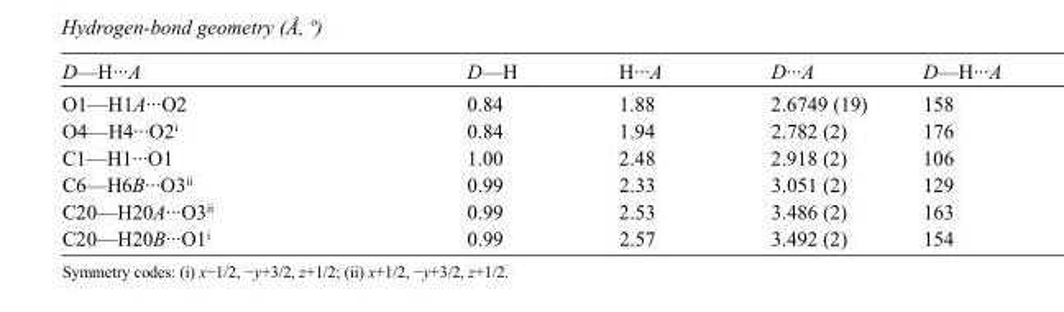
<table><tbody><tr><td>D—H···A</td><td>D—H</td><td>H···A</td><td>D···A</td><td>D—H···A</td></tr><tr><td>O1—H1A···O2</td><td>0.84</td><td>1.88</td><td>2.6749 (19)</td><td>158</td></tr><tr><td>O4—H4···O2<sup>i</sup></td><td>0.84</td><td>1.94</td><td>2.782 (2)</td><td>176</td></tr><tr><td>C1—H1···O1</td><td>1.00</td><td>2.48</td><td>2.918 (2)</td><td>106</td></tr><tr><td>C6—H6B···O3<sup>ii</sup></td><td>0.99</td><td>2.33</td><td>3.051 (2)</td><td>129</td></tr><tr><td>C20—H20A···O3<sup>ii</sup></td><td>0.99</td><td>2.53</td><td>3.486 (2)</td><td>163</td></tr><tr><td>C20—H20B···O1<sup>i</sup></td><td>0.99</td><td>2.57</td><td>3.492 (2)</td><td>154</td></tr></tbody></table>